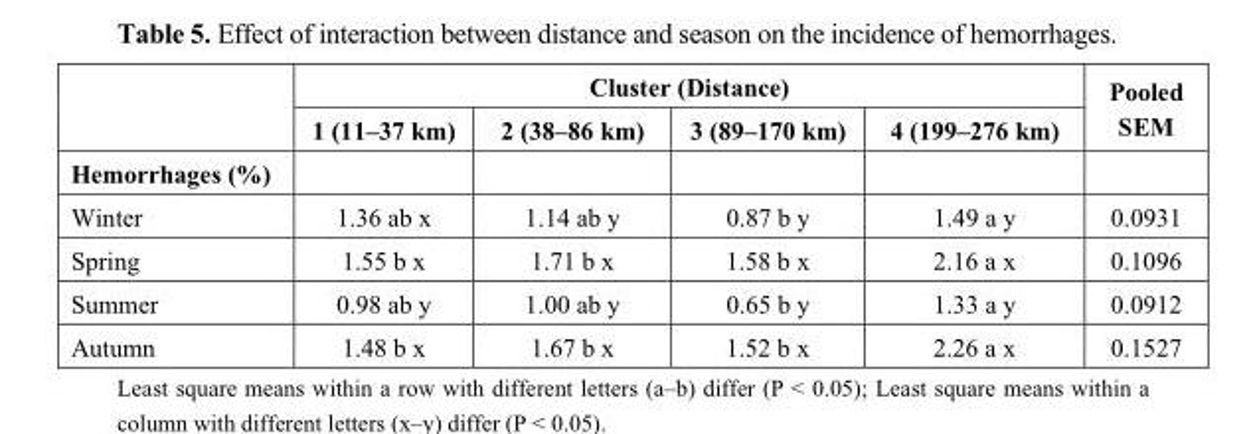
<table><thead><tr><td rowspan="2"></td><td colspan="4">Cluster (Distance)</td><td rowspan="2">Pooled SEM</td></tr><tr><td>1 (11–37 km)</td><td>2 (38–86 km)</td><td>3 (89–170 km)</td><td>4 (199–276 km)</td></tr></thead><tbody><tr><td colspan="6">Hemorrhages (%)</td></tr><tr><td>Winter</td><td>1.36 ab x</td><td>1.14 ab y</td><td>0.87 b y</td><td>1.49 a y</td><td>0.0931</td></tr><tr><td>Spring</td><td>1.55 b x</td><td>1.71 b x</td><td>1.58 b x</td><td>2.16 a x</td><td>0.1096</td></tr><tr><td>Summer</td><td>0.98 ab y</td><td>1.00 ab y</td><td>0.65 b y</td><td>1.33 a y</td><td>0.0912</td></tr><tr><td>Autumn</td><td>1.48 b x</td><td>1.67 b x</td><td>1.52 b x</td><td>2.26 a x</td><td>0.1527</td></tr></tbody></table>